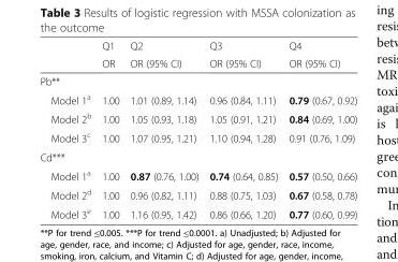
<table><thead><tr><td rowspan="2"></td><td rowspan="2">Q1 OR</td><td rowspan="2">Q2 OR (95% CI)</td><td rowspan="2">Q3 OR (95% CI)</td><td rowspan="2">Q4 OR (95% CI)</td></tr><tr></tr></thead><tbody><tr><td colspan="5">Pb**</td></tr><tr><td>Model 1<sup>a</sup></td><td>1.00</td><td>1.01 (0.89, 1.14)</td><td>0.96 (0.84, 1.11)</td><td>0.79 (0.67, 0.92)</td></tr><tr><td>Model 2<sup>b</sup></td><td>1.00</td><td>1.05 (0.93, 1.18)</td><td>1.05 (0.91, 1.21)</td><td>0.84 (0.69, 1.00)</td></tr><tr><td>Model 3<sup>c</sup></td><td>1.00</td><td>1.07 (0.95, 1.21)</td><td>1.10 (0.94, 1.28)</td><td>0.91 (0.76, 1.09)</td></tr><tr><td colspan="5">Cd***</td></tr><tr><td>Model 1<sup>a</sup></td><td>1.00</td><td>0.87 (0.76, 1.00)</td><td>0.74 (0.64, 0.85)</td><td>0.57 (0.50, 0.66)</td></tr><tr><td>Model 2<sup>d</sup></td><td>1.00</td><td>0.96 (0.82, 1.11)</td><td>0.88 (0.75, 1.03)</td><td>0.67 (0.58, 0.78)</td></tr><tr><td>Model 3<sup>e</sup></td><td>1.00</td><td>1.16 (0.95, 1.42)</td><td>0.86 (0.66, 1.20)</td><td>0.77 (0.60, 0.99)</td></tr></tbody></table>